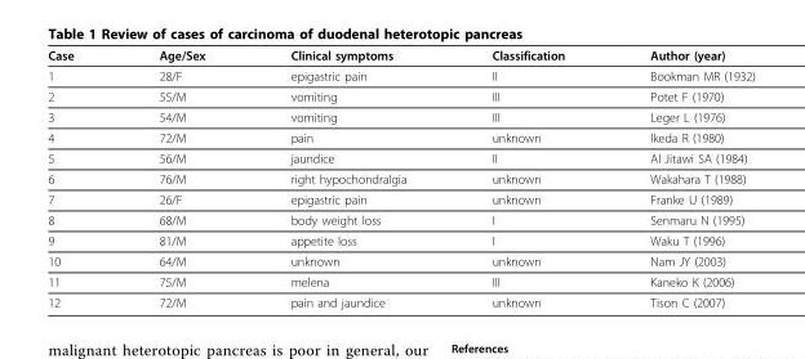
<table><thead><tr><td>Case</td><td>Age/Sex</td><td>Clinical symptoms</td><td>Classification</td><td>Author (year)</td></tr></thead><tbody><tr><td>1</td><td>28/F</td><td>epigastric pain</td><td>II</td><td>Bookman MR (1932)</td></tr><tr><td>2</td><td>55/M</td><td>vomiting</td><td>III</td><td>Potet F (1970)</td></tr><tr><td>3</td><td>54/M</td><td>vomiting</td><td>III</td><td>Leger L (1976)</td></tr><tr><td>4</td><td>72/M</td><td>pain</td><td>unknown</td><td>Ikeda R (1980)</td></tr><tr><td>5</td><td>56/M</td><td>jaundice</td><td>II</td><td>Al Jitawi SA (1984)</td></tr><tr><td>6</td><td>76/M</td><td>right hypochondralgia</td><td>unknown</td><td>Wakahara T (1988)</td></tr><tr><td>7</td><td>26/F</td><td>epigastric pain</td><td>unknown</td><td>Franke U (1989)</td></tr><tr><td>8</td><td>68/M</td><td>body weight loss</td><td>I</td><td>Senmaru N (1995)</td></tr><tr><td>9</td><td>81/M</td><td>appetite loss</td><td>I</td><td>Waku T (1996)</td></tr><tr><td>10</td><td>64/M</td><td>unknown</td><td>unknown</td><td>Nam JY (2003)</td></tr><tr><td>11</td><td>75/M</td><td>melena</td><td>III</td><td>Kaneko K (2006)</td></tr><tr><td>12</td><td>72/M</td><td>pain and jaundice</td><td>unknown</td><td>Tison C (2007)</td></tr></tbody></table>